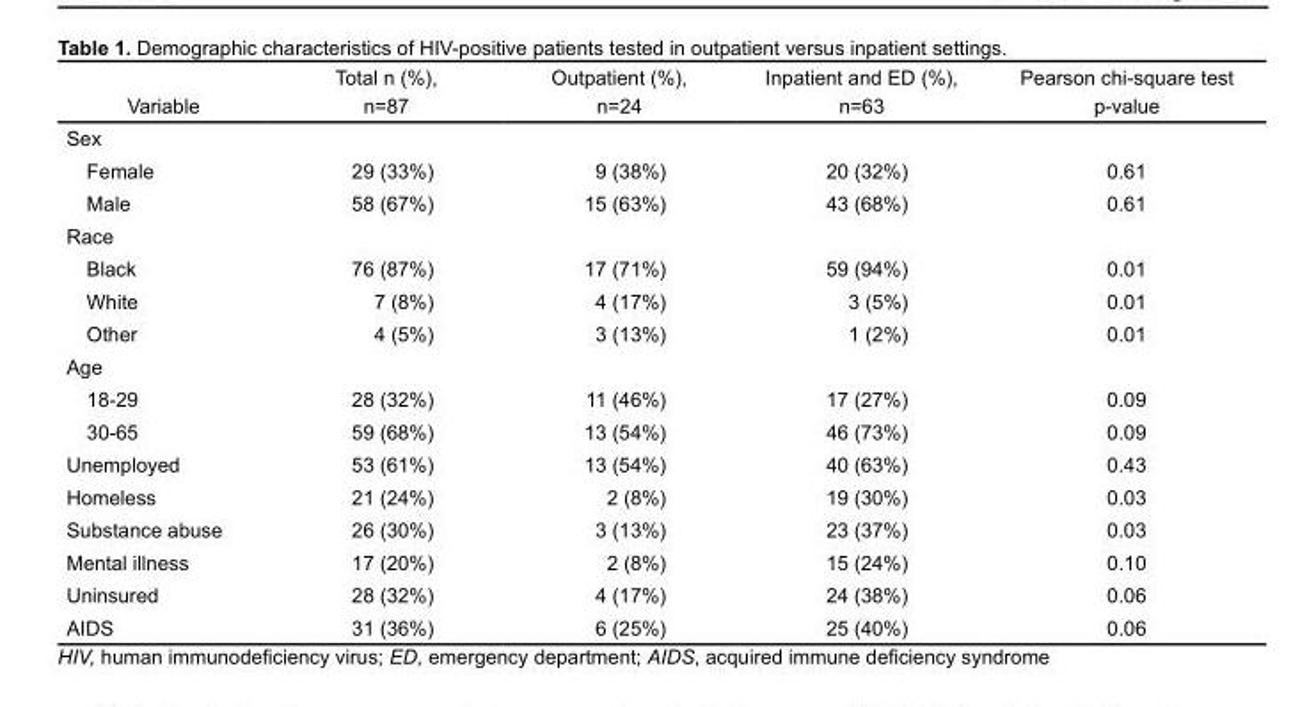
<table><thead><tr><td>Variable</td><td>Total n (%), n=87</td><td>Outpatient (%), n=24</td><td>Inpatient and ED (%), n=63</td><td>Pearson chi-square test p-value</td></tr></thead><tbody><tr><td colspan="5">Sex</td></tr><tr><td>Female</td><td>29 (33%)</td><td>9 (38%)</td><td>20 (32%)</td><td>0.61</td></tr><tr><td>Male</td><td>58 (67%)</td><td>15 (63%)</td><td>43 (68%)</td><td>0.61</td></tr><tr><td colspan="5">Race</td></tr><tr><td>Black</td><td>76 (87%)</td><td>17 (71%)</td><td>59 (94%)</td><td>0.01</td></tr><tr><td>White</td><td>7 (8%)</td><td>4 (17%)</td><td>3 (5%)</td><td>0.01</td></tr><tr><td>Other</td><td>4 (5%)</td><td>3 (13%)</td><td>1 (2%)</td><td>0.01</td></tr><tr><td colspan="5">Age</td></tr><tr><td>18-29</td><td>28 (32%)</td><td>11 (46%)</td><td>17 (27%)</td><td>0.09</td></tr><tr><td>30-65</td><td>59 (68%)</td><td>13 (54%)</td><td>46 (73%)</td><td>0.09</td></tr><tr><td>Unemployed</td><td>53 (61%)</td><td>13 (54%)</td><td>40 (63%)</td><td>0.43</td></tr><tr><td>Homeless</td><td>21 (24%)</td><td>2 (8%)</td><td>19 (30%)</td><td>0.03</td></tr><tr><td>Substance abuse</td><td>26 (30%)</td><td>3 (13%)</td><td>23 (37%)</td><td>0.03</td></tr><tr><td>Mental illness</td><td>17 (20%)</td><td>2 (8%)</td><td>15 (24%)</td><td>0.10</td></tr><tr><td>Uninsured</td><td>28 (32%)</td><td>4 (17%)</td><td>24 (38%)</td><td>0.06</td></tr><tr><td>AIDS</td><td>31 (36%)</td><td>6 (25%)</td><td>25 (40%)</td><td>0.06</td></tr></tbody></table>